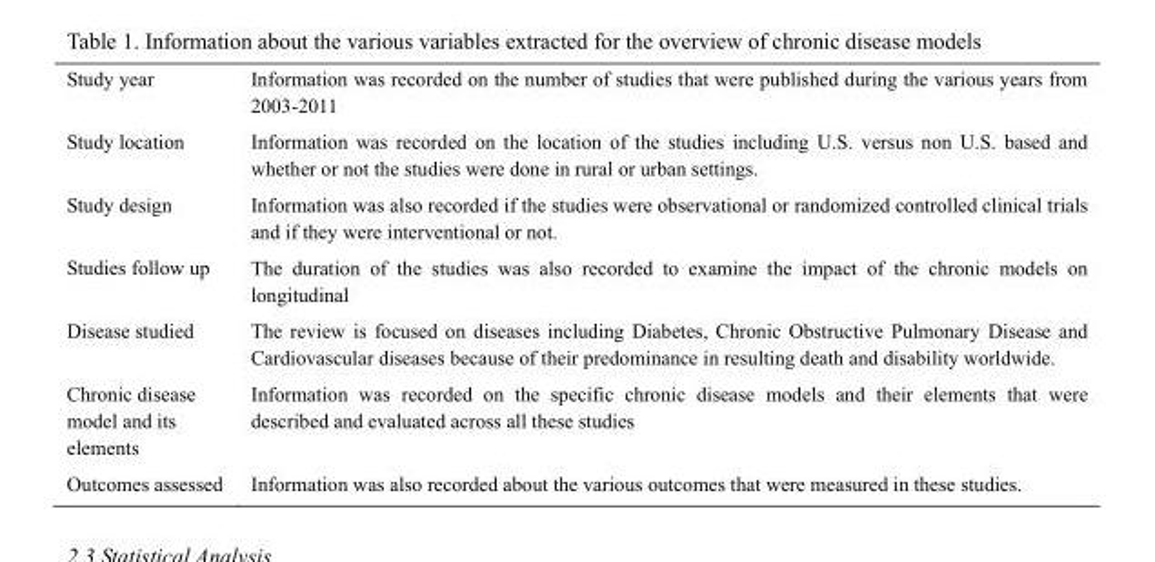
<table><tbody><tr><td>Study year</td><td>Information was recorded on the number of studies that were published during the various years from 2003-2011</td></tr><tr><td>Study location</td><td>Information was recorded on the location of the studies including U.S. versus non U.S. based and whether or not the studies were done in rural or urban settings.</td></tr><tr><td>Study design</td><td>Information was also recorded if the studies were observational or randomized controlled clinical trials and if they were interventional or not.</td></tr><tr><td>Studies follow up</td><td>The duration of the studies was also recorded to examine the impact of the chronic models on longitudinal</td></tr><tr><td>Disease studied</td><td>The review is focused on diseases including Diabetes, Chronic Obstructive Pulmonary Disease and Cardiovascular diseases because of their predominance in resulting death and disability worldwide.</td></tr><tr><td>Chronic disease model and its elements</td><td>Information was recorded on the specific chronic disease models and their elements that were described and evaluated across all these studies</td></tr><tr><td>Outcomes assessed</td><td>Information was also recorded about the various outcomes that were measured in these studies.</td></tr></tbody></table>